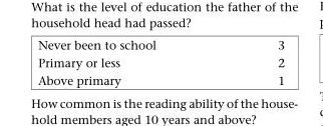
<table><tbody><tr><td>Never been to school</td><td>3</td></tr><tr><td>Primary or less</td><td>2</td></tr><tr><td>Above primary</td><td>1</td></tr></tbody></table>